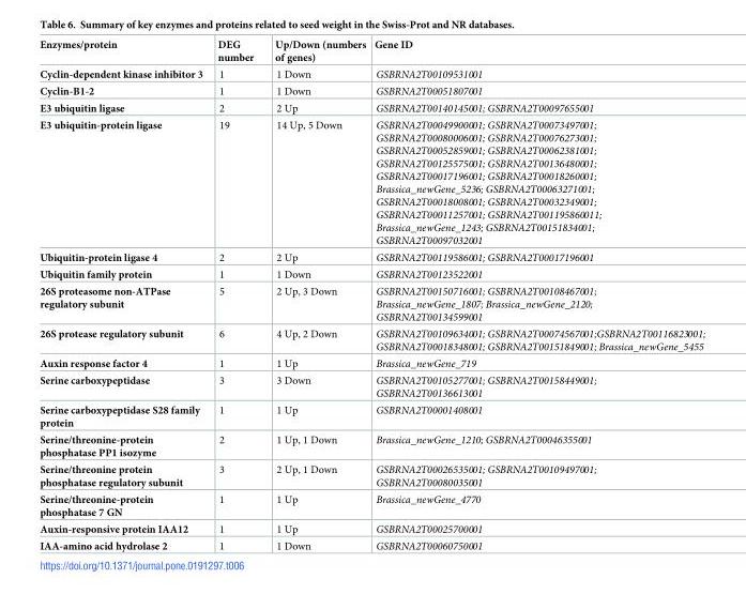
<table><thead><tr><td>Enzymes/protein</td><td>DEG number</td><td>Up/Down (numbers of genes)</td><td>Gene ID</td></tr></thead><tbody><tr><td>Cyclin-dependent kinase inhibitor 3</td><td>1</td><td>1 Down</td><td>GSBRNA2T00109531001</td></tr><tr><td>Cyclin-B1-2</td><td>1</td><td>1 Down</td><td>GSBRNA2T00051807001</td></tr><tr><td>E3 ubiquitin ligase</td><td>2</td><td>2 Up</td><td>GSBRNA2T00140145001; GSBRNA2T00097655001</td></tr><tr><td>E3 ubiquitin-protein ligase</td><td>19</td><td>14 Up, 5 Down</td><td>GSBRNA2T00049900001; GSBRNA2T00073497001; GSBRNA2T00080006001; GSBRNA2T00076273001; GSBRNA2T00052859001; GSBRNA2T00062381001; GSBRNA2T00125575001; GSBRNA2T00136480001; GSBRNA2T00017196001; GSBRNA2T00018260001; Brassica_newGene_5236; GSBRNA2T00063271001; GSBRNA2T00018008001; GSBRNA2T00032349001; GSBRNA2T00011257001; GSBRNA2T001195860011; Brassica_newGene_1243; GSBRNA2T00151834001; GSBRNA2T00097032001</td></tr><tr><td>Ubiquitin-protein ligase 4</td><td>2</td><td>2 Up</td><td>GSBRNA2T00119586001; GSBRNA2T00017196001</td></tr><tr><td>Ubiquitin family protein</td><td>1</td><td>1 Down</td><td>GSBRNA2T00123522001</td></tr><tr><td>26S proteasome non-ATPase regulatory subunit</td><td>5</td><td>2 Up, 3 Down</td><td>GSBRNA2T00150716001; GSBRNA2T00108467001; Brassica_newGene_1807; Brassica_newGene_2120; GSBRNA2T00134599001</td></tr><tr><td>26S protease regulatory subunit</td><td>6</td><td>4 Up, 2 Down</td><td>GSBRNA2T00109634001; GSBRNA2T00074567001;GSBRNA2T00116823001; GSBRNA2T00018348001; GSBRNA2T00151849001; Brassica_newGene_5455</td></tr><tr><td>Auxin response factor 4</td><td>1</td><td>1 Up</td><td>Brassica_newGene_719</td></tr><tr><td>Serine carboxypeptidase</td><td>3</td><td>3 Down</td><td>GSBRNA2T00105277001; GSBRNA2T00158449001; GSBRNA2T00136613001</td></tr><tr><td>Serine carboxypeptidase S28 family protein</td><td>1</td><td>1 Up</td><td>GSBRNA2T00001408001</td></tr><tr><td>Serine/threonine-protein phosphatase PP1 isozyme</td><td>2</td><td>1 Up, 1 Down</td><td>Brassica_newGene_1210; GSBRNA2T00046355001</td></tr><tr><td>Serine/threonine protein phosphatase regulatory subunit</td><td>3</td><td>2 Up, 1 Down</td><td>GSBRNA2T00026535001; GSBRNA2T00109497001; GSBRNA2T00080035001</td></tr><tr><td>Serine/threonine-protein phosphatase 7 GN</td><td>1</td><td>1 Up</td><td>Brassica_newGene_4770</td></tr><tr><td>Auxin-responsive protein IAA12</td><td>1</td><td>1 Up</td><td>GSBRNA2T00025700001</td></tr><tr><td>IAA-amino acid hydrolase 2</td><td>1</td><td>1 Down</td><td>GSBRNA2T00060750001</td></tr></tbody></table>